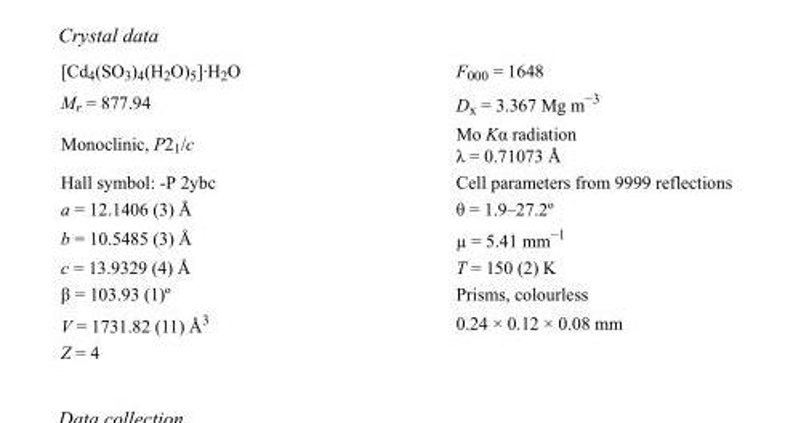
<table><tbody><tr><td>[Cd<sub>4</sub>(SO<sub>3</sub>)<sub>4</sub>(H<sub>2</sub>O)<sub>5</sub>]·H<sub>2</sub>O</td><td>F<sub>000</sub> = 1648</td></tr><tr><td>M<sub>r</sub> = 877.94</td><td>D<sub>x</sub> = 3.367 Mg m<sup>−3</sup></td></tr><tr><td>Monoclinic, P2<sub>1</sub>/c</td><td>Mo Kα radiation λ = 0.71073 Å</td></tr><tr><td>Hall symbol: -P 2ybc</td><td>Cell parameters from 9999 reflections</td></tr><tr><td>a = 12.1406 (3) Å</td><td>θ = 1.9–27.2º</td></tr><tr><td>b = 10.5485 (3) Å</td><td>µ = 5.41 mm<sup>−1</sup></td></tr><tr><td>c = 13.9329 (4) Å</td><td>T = 150 (2) K</td></tr><tr><td>β = 103.93 (1)º</td><td>Prisms, colourless</td></tr><tr><td>V = 1731.82 (11) Å<sup>3</sup></td><td>0.24 × 0.12 × 0.08 mm</td></tr><tr><td>Z = 4</td><td></td></tr></tbody></table>